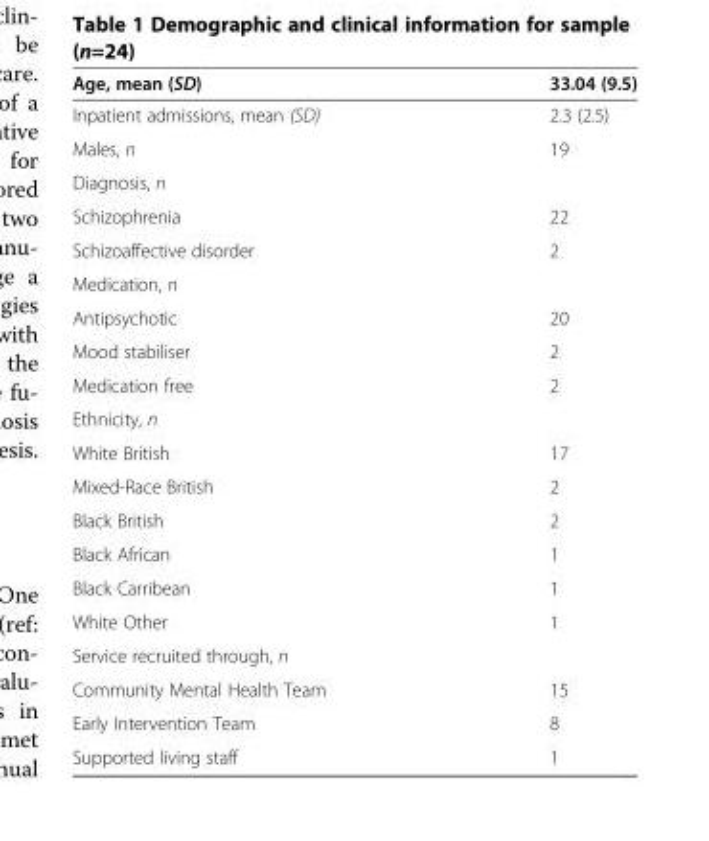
<table><tbody><tr><td>Age, mean (SD)</td><td>33.04 (9.5)</td></tr><tr><td>Inpatient admissions, mean (SD)</td><td>2.3 (2.5)</td></tr><tr><td>Males, n</td><td>19</td></tr><tr><td colspan="2">Diagnosis, n</td></tr><tr><td>Schizophrenia</td><td>22</td></tr><tr><td>Schizoaffective disorder</td><td>2</td></tr><tr><td colspan="2">Medication, n</td></tr><tr><td>Antipsychotic</td><td>20</td></tr><tr><td>Mood stabiliser</td><td>2</td></tr><tr><td>Medication free</td><td>2</td></tr><tr><td colspan="2">Ethnicity, n</td></tr><tr><td>White British</td><td>17</td></tr><tr><td>Mixed-Race British</td><td>2</td></tr><tr><td>Black British</td><td>2</td></tr><tr><td>Black African</td><td>1</td></tr><tr><td>Black Carribean</td><td>1</td></tr><tr><td>White Other</td><td>1</td></tr><tr><td colspan="2">Service recruited through, n</td></tr><tr><td>Community Mental Health Team</td><td>15</td></tr><tr><td>Early Intervention Team</td><td>8</td></tr><tr><td>Supported living staff</td><td>1</td></tr></tbody></table>